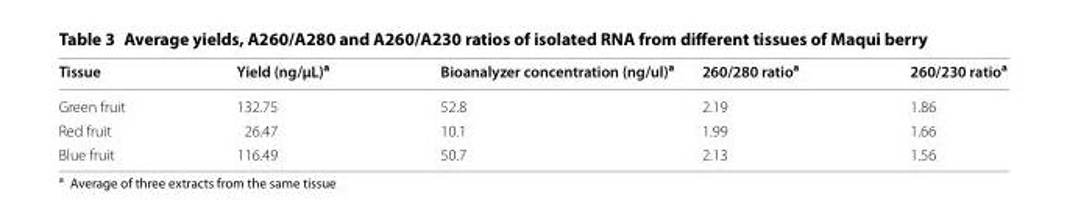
<table><thead><tr><td>Tissue</td><td>Yield (ng/μL)<sup>a</sup></td><td>Bioanalyzer concentration (ng/ul)<sup>a</sup></td><td>260/280 ratio<sup>a</sup></td><td>260/230 ratio<sup>a</sup></td></tr></thead><tbody><tr><td>Green fruit</td><td>132.75</td><td>52.8</td><td>2.19</td><td>1.86</td></tr><tr><td>Red fruit</td><td>26.47</td><td>10.1</td><td>1.99</td><td>1.66</td></tr><tr><td>Blue fruit</td><td>116.49</td><td>50.7</td><td>2.13</td><td>1.56</td></tr></tbody></table>